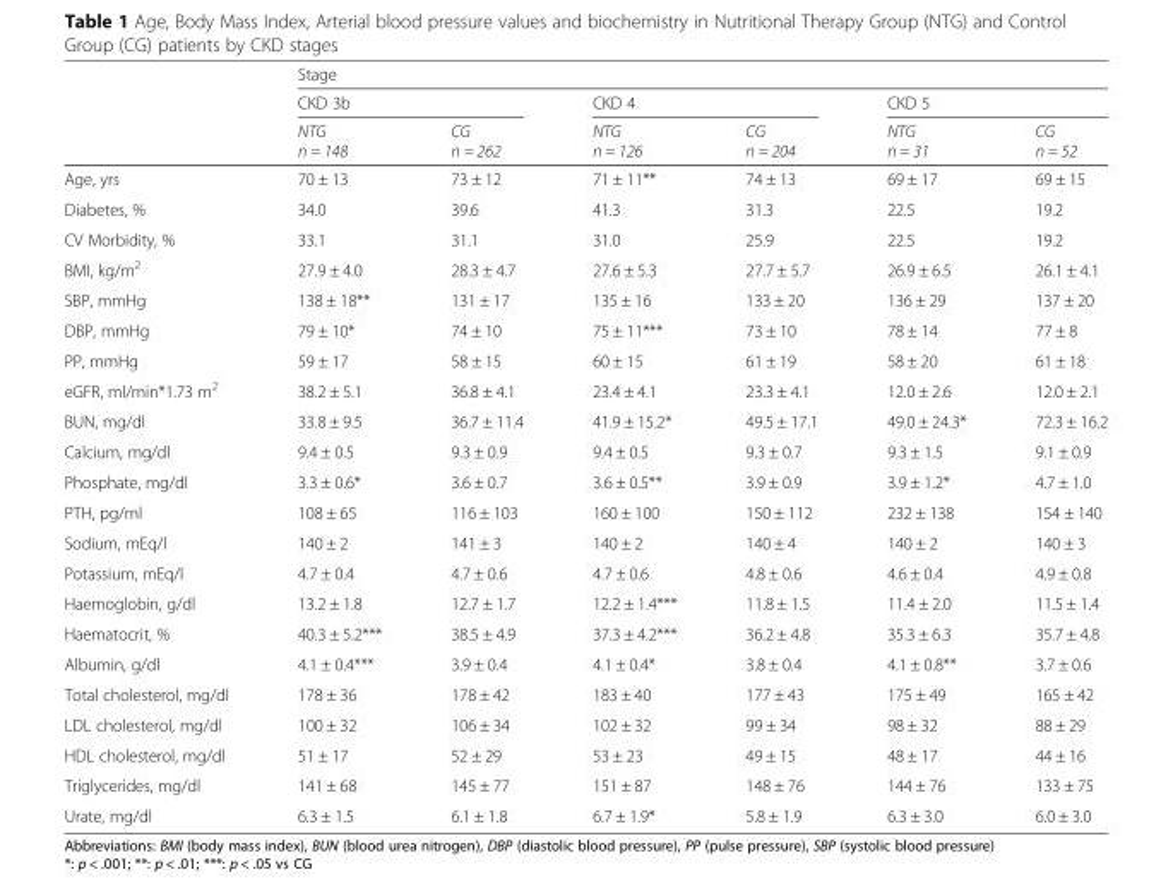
<table><thead><tr><td rowspan="3"></td><td colspan="6">Stage</td></tr><tr><td colspan="2">CKD 3b</td><td colspan="2">CKD 4</td><td colspan="2">CKD 5</td></tr><tr><td>NTG n = 148</td><td>CG n = 262</td><td>NTG n = 126</td><td>CG n = 204</td><td>NTG n = 31</td><td>CG n = 52</td></tr></thead><tbody><tr><td>Age, yrs</td><td>70 ± 13</td><td>73 ± 12</td><td>71 ± 11**</td><td>74 ± 13</td><td>69 ± 17</td><td>69 ± 15</td></tr><tr><td>Diabetes, %</td><td>34.0</td><td>39.6</td><td>41.3</td><td>31.3</td><td>22.5</td><td>19.2</td></tr><tr><td>CV Morbidity, %</td><td>33.1</td><td>31.1</td><td>31.0</td><td>25.9</td><td>22.5</td><td>19.2</td></tr><tr><td>BMI, kg/m<sup>2</sup></td><td>27.9 ± 4.0</td><td>28.3 ± 4.7</td><td>27.6 ± 5.3</td><td>27.7 ± 5.7</td><td>26.9 ± 6.5</td><td>26.1 ± 4.1</td></tr><tr><td>SBP, mmHg</td><td>138 ± 18**</td><td>131 ± 17</td><td>135 ± 16</td><td>133 ± 20</td><td>136 ± 29</td><td>137 ± 20</td></tr><tr><td>DBP, mmHg</td><td>79 ± 10*</td><td>74 ± 10</td><td>75 ± 11***</td><td>73 ± 10</td><td>78 ± 14</td><td>77 ± 8</td></tr><tr><td>PP, mmHg</td><td>59 ± 17</td><td>58 ± 15</td><td>60 ± 15</td><td>61 ± 19</td><td>58 ± 20</td><td>61 ± 18</td></tr><tr><td>eGFR, ml/min*1.73 m<sup>2</sup></td><td>38.2 ± 5.1</td><td>36.8 ± 4.1</td><td>23.4 ± 4.1</td><td>23.3 ± 4.1</td><td>12.0 ± 2.6</td><td>12.0 ± 2.1</td></tr><tr><td>BUN, mg/dl</td><td>33.8 ± 9.5</td><td>36.7 ± 11.4</td><td>41.9 ± 15.2*</td><td>49.5 ± 17.1</td><td>49.0 ± 24.3*</td><td>72.3 ± 16.2</td></tr><tr><td>Calcium, mg/dl</td><td>9.4 ± 0.5</td><td>9.3 ± 0.9</td><td>9.4 ± 0.5</td><td>9.3 ± 0.7</td><td>9.3 ± 1.5</td><td>9.1 ± 0.9</td></tr><tr><td>Phosphate, mg/dl</td><td>3.3 ± 0.6*</td><td>3.6 ± 0.7</td><td>3.6 ± 0.5**</td><td>3.9 ± 0.9</td><td>3.9 ± 1.2*</td><td>4.7 ± 1.0</td></tr><tr><td>PTH, pg/ml</td><td>108 ± 65</td><td>116 ± 103</td><td>160 ± 100</td><td>150 ± 112</td><td>232 ± 138</td><td>154 ± 140</td></tr><tr><td>Sodium, mEq/l</td><td>140 ± 2</td><td>141 ± 3</td><td>140 ± 2</td><td>140 ± 4</td><td>140 ± 2</td><td>140 ± 3</td></tr><tr><td>Potassium, mEq/l</td><td>4.7 ± 0.4</td><td>4.7 ± 0.6</td><td>4.7 ± 0.6</td><td>4.8 ± 0.6</td><td>4.6 ± 0.4</td><td>4.9 ± 0.8</td></tr><tr><td>Haemoglobin, g/dl</td><td>13.2 ± 1.8</td><td>12.7 ± 1.7</td><td>12.2 ± 1.4***</td><td>11.8 ± 1.5</td><td>11.4 ± 2.0</td><td>11.5 ± 1.4</td></tr><tr><td>Haematocrit, %</td><td>40.3 ± 5.2***</td><td>38.5 ± 4.9</td><td>37.3 ± 4.2***</td><td>36.2 ± 4.8</td><td>35.3 ± 6.3</td><td>35.7 ± 4.8</td></tr><tr><td>Albumin, g/dl</td><td>4.1 ± 0.4***</td><td>3.9 ± 0.4</td><td>4.1 ± 0.4*</td><td>3.8 ± 0.4</td><td>4.1 ± 0.8**</td><td>3.7 ± 0.6</td></tr><tr><td>Total cholesterol, mg/dl</td><td>178 ± 36</td><td>178 ± 42</td><td>183 ± 40</td><td>177 ± 43</td><td>175 ± 49</td><td>165 ± 42</td></tr><tr><td>LDL cholesterol, mg/dl</td><td>100 ± 32</td><td>106 ± 34</td><td>102 ± 32</td><td>99 ± 34</td><td>98 ± 32</td><td>88 ± 29</td></tr><tr><td>HDL cholesterol, mg/dl</td><td>51 ± 17</td><td>52 ± 29</td><td>53 ± 23</td><td>49 ± 15</td><td>48 ± 17</td><td>44 ± 16</td></tr><tr><td>Triglycerides, mg/dl</td><td>141 ± 68</td><td>145 ± 77</td><td>151 ± 87</td><td>148 ± 76</td><td>144 ± 76</td><td>133 ± 75</td></tr><tr><td>Urate, mg/dl</td><td>6.3 ± 1.5</td><td>6.1 ± 1.8</td><td>6.7 ± 1.9*</td><td>5.8 ± 1.9</td><td>6.3 ± 3.0</td><td>6.0 ± 3.0</td></tr></tbody></table>